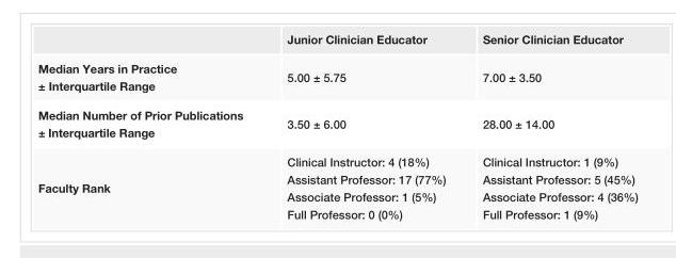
<table><thead><tr><td></td><td>Junior Clinician Educator</td><td>Senior Clinician Educator</td></tr></thead><tbody><tr><td>Median Years in Practice ± Interquartile Range</td><td>5.00 ± 5.75</td><td>7.00 ± 3.50</td></tr><tr><td>Median Number of Prior Publications ± Interquartile Range</td><td>3.50 ± 6.00</td><td>28.00 ± 14.00</td></tr><tr><td>Faculty Rank</td><td>Clinical Instructor: 4 (18%) Assistant Professor: 17 (77%) Associate Professor: 1 (5%) Full Professor: 0 (0%)</td><td>Clinical Instructor: 1 (9%) Assistant Professor: 5 (45%) Associate Professor: 4 (36%) Full Professor: 1 (9%)</td></tr></tbody></table>